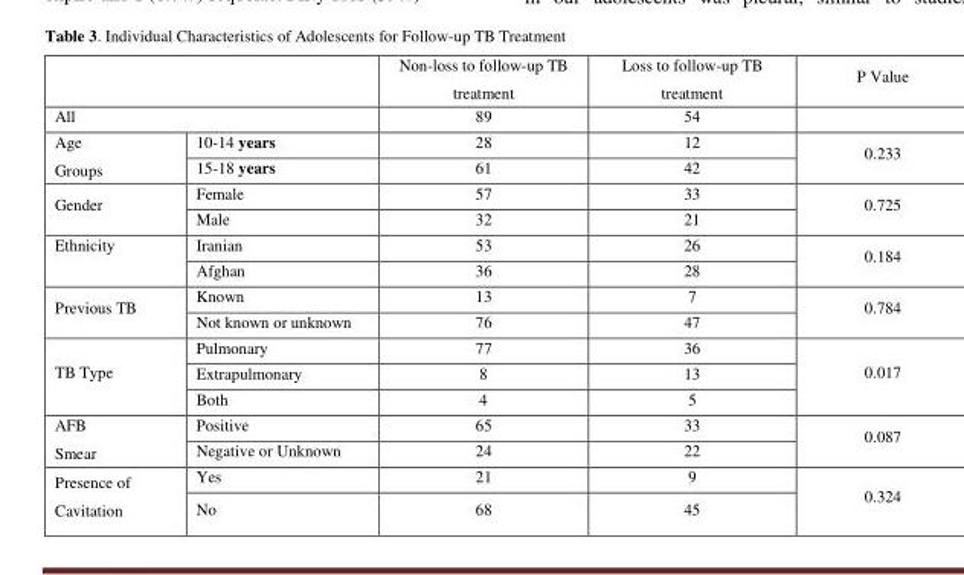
<table><thead><tr><td></td><td></td><td>Non-loss to follow-up TB treatment</td><td>Loss to follow-up TB treatment</td><td>P Value</td></tr></thead><tbody><tr><td>All</td><td></td><td>89</td><td>54</td><td></td></tr><tr><td rowspan="2">Age Groups</td><td>10-14 years</td><td>28</td><td>12</td><td rowspan="2">0.233</td></tr><tr><td>15-18 years</td><td>61</td><td>42</td></tr><tr><td rowspan="2">Gender</td><td>Female</td><td>57</td><td>33</td><td rowspan="2">0.725</td></tr><tr><td>Male</td><td>32</td><td>21</td></tr><tr><td rowspan="2">Ethnicity</td><td>Iranian</td><td>53</td><td>26</td><td rowspan="2">0.184</td></tr><tr><td>Afghan</td><td>36</td><td>28</td></tr><tr><td rowspan="2">Previous TB</td><td>Known</td><td>13</td><td>7</td><td rowspan="2">0.784</td></tr><tr><td>Not known or unknown</td><td>76</td><td>47</td></tr><tr><td rowspan="3">TB Type</td><td>Pulmonary</td><td>77</td><td>36</td><td rowspan="3">0.017</td></tr><tr><td>Extrapulmonary</td><td>8</td><td>13</td></tr><tr><td>Both</td><td>4</td><td>5</td></tr><tr><td rowspan="2">AFB Smear</td><td>Positive</td><td>65</td><td>33</td><td rowspan="2">0.087</td></tr><tr><td>Negative or Unknown</td><td>24</td><td>22</td></tr><tr><td rowspan="2">Presence of Cavitation</td><td>Yes</td><td>21</td><td>9</td><td rowspan="2">0.324</td></tr><tr><td>No</td><td>68</td><td>45</td></tr></tbody></table>